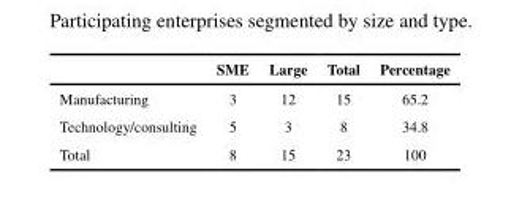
<table><thead><tr><td></td><td>SME</td><td>Large</td><td>Total</td><td>Percentage</td></tr></thead><tbody><tr><td>Manufacturing</td><td>3</td><td>12</td><td>15</td><td>65.2</td></tr><tr><td>Technology/consulting</td><td>5</td><td>3</td><td>8</td><td>34.8</td></tr><tr><td>Total</td><td>8</td><td>15</td><td>23</td><td>100</td></tr></tbody></table>